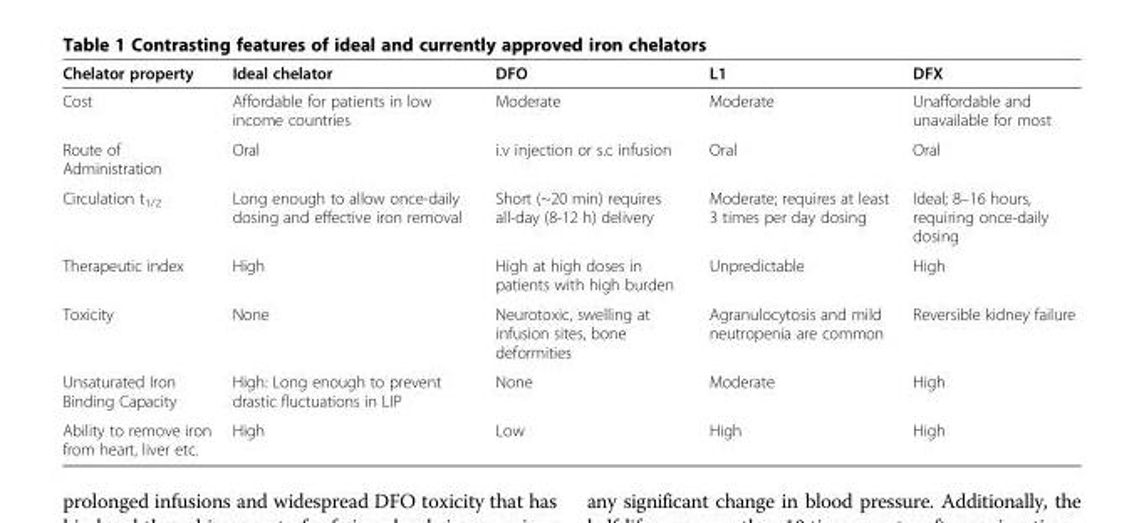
<table><thead><tr><td>Chelator property</td><td>Ideal chelator</td><td>DFO</td><td>L1</td><td>DFX</td></tr></thead><tbody><tr><td>Cost</td><td>Affordable for patients in low income countries</td><td>Moderate</td><td>Moderate</td><td>Unaffordable and unavailable for most</td></tr><tr><td>Route of Administration</td><td>Oral</td><td>i.v injection or s.c infusion</td><td>Oral</td><td>Oral</td></tr><tr><td>Circulation t<sub>1/2</sub></td><td>Long enough to allow once-daily dosing and effective iron removal</td><td>Short (~20 min) requires all-day (8-12 h) delivery</td><td>Moderate; requires at least 3 times per day dosing</td><td>Ideal; 8–16 hours, requiring once-daily dosing</td></tr><tr><td>Therapeutic index</td><td>High</td><td>High at high doses in patients with high burden</td><td>Unpredictable</td><td>High</td></tr><tr><td>Toxicity</td><td>None</td><td>Neurotoxic, swelling at infusion sites, bone deformities</td><td>Agranulocytosis and mild neutropenia are common</td><td>Reversible kidney failure</td></tr><tr><td>Unsaturated Iron Binding Capacity</td><td>High: Long enough to prevent drastic fluctuations in LIP</td><td>None</td><td>Moderate</td><td>High</td></tr><tr><td>Ability to remove iron from heart, liver etc.</td><td>High</td><td>Low</td><td>High</td><td>High</td></tr></tbody></table>